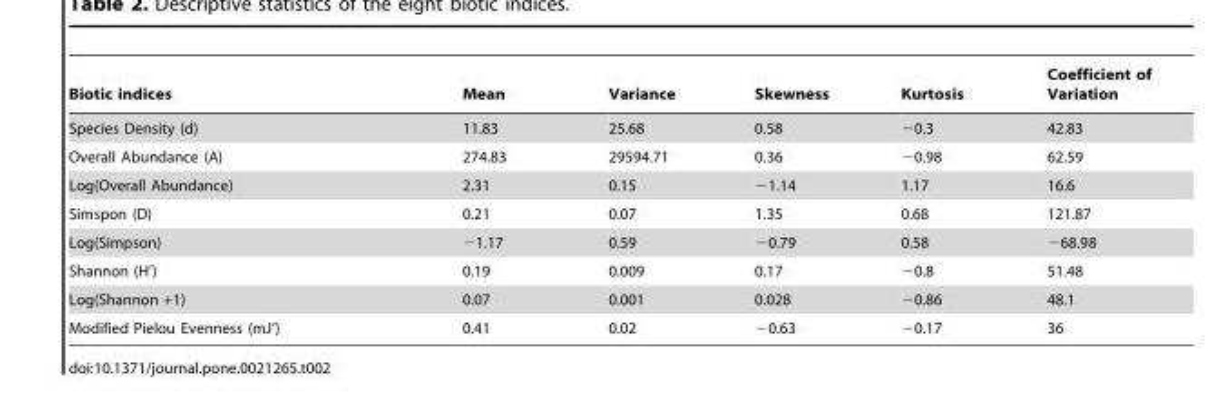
<table><thead><tr><td>Biotic indices</td><td>Mean</td><td>Variance</td><td>Skewness</td><td>Kurtosis</td><td>Coefficient of Variation</td></tr></thead><tbody><tr><td>Species Density (d)</td><td>11.83</td><td>25.68</td><td>0.58</td><td>−0.3</td><td>42.83</td></tr><tr><td>Overall Abundance (A)</td><td>274.83</td><td>29594.71</td><td>0.36</td><td>−0.98</td><td>62.59</td></tr><tr><td>Log(Overall Abundance)</td><td>2.31</td><td>0.15</td><td>−1.14</td><td>1.17</td><td>16.6</td></tr><tr><td>Simspon (D)</td><td>0.21</td><td>0.07</td><td>1.35</td><td>0.68</td><td>121.87</td></tr><tr><td>Log(Simpson)</td><td>−1.17</td><td>0.59</td><td>−0.79</td><td>0.58</td><td>−68.98</td></tr><tr><td>Shannon (H’)</td><td>0.19</td><td>0.009</td><td>0.17</td><td>−0.8</td><td>51.48</td></tr><tr><td>Log(Shannon +1)</td><td>0.07</td><td>0.001</td><td>0.028</td><td>−0.86</td><td>48.1</td></tr><tr><td>Modified Pielou Evenness (mJ’)</td><td>0.41</td><td>0.02</td><td>−0.63</td><td>−0.17</td><td>36</td></tr></tbody></table>